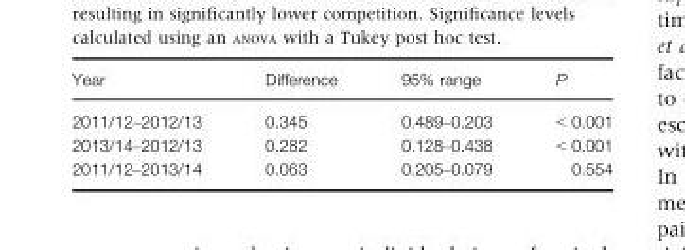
<table><thead><tr><td>Year</td><td>Difference</td><td>95% range</td><td>P</td></tr></thead><tbody><tr><td>2011/12–2012/13</td><td>0.345</td><td>0.489–0.203</td><td>&lt; 0.001</td></tr><tr><td>2013/14–2012/13</td><td>0.282</td><td>0.128–0.438</td><td>&lt; 0.001</td></tr><tr><td>2011/12–2013/14</td><td>0.063</td><td>0.205–0.079</td><td>0.554</td></tr></tbody></table>